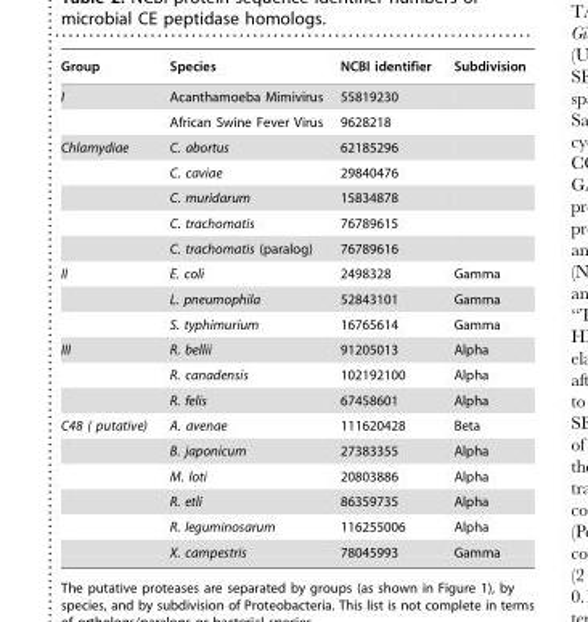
<table><thead><tr><td>Group</td><td>Species</td><td>NCBI identifier</td><td>Subdivision</td></tr></thead><tbody><tr><td rowspan="2">I</td><td>Acanthamoeba Mimivirus</td><td>55819230</td><td></td></tr><tr><td>African Swine Fever Virus</td><td>9628218</td><td></td></tr><tr><td rowspan="5">Chlamydiae</td><td>C. abortus</td><td>62185296</td><td></td></tr><tr><td>C. caviae</td><td>29840476</td><td></td></tr><tr><td>C. muridarum</td><td>15834878</td><td></td></tr><tr><td>C. trachomatis</td><td>76789615</td><td></td></tr><tr><td>C. trachomatis (paralog)</td><td>76789616</td><td></td></tr><tr><td rowspan="3">II</td><td>E. coli</td><td>2498328</td><td>Gamma</td></tr><tr><td>L. pneumophila</td><td>52843101</td><td>Gamma</td></tr><tr><td>S. typhimurium</td><td>16765614</td><td>Gamma</td></tr><tr><td rowspan="3">III</td><td>R. bellii</td><td>91205013</td><td>Alpha</td></tr><tr><td>R. canadensis</td><td>102192100</td><td>Alpha</td></tr><tr><td>R. felis</td><td>67458601</td><td>Alpha</td></tr><tr><td rowspan="6">C48 ( putative)</td><td>A. avenae</td><td>111620428</td><td>Beta</td></tr><tr><td>B. japonicum</td><td>27383355</td><td>Alpha</td></tr><tr><td>M. loti</td><td>20803886</td><td>Alpha</td></tr><tr><td>R. etli</td><td>86359735</td><td>Alpha</td></tr><tr><td>R. leguminosarum</td><td>116255006</td><td>Alpha</td></tr><tr><td>X. campestris</td><td>78045993</td><td>Gamma</td></tr></tbody></table>